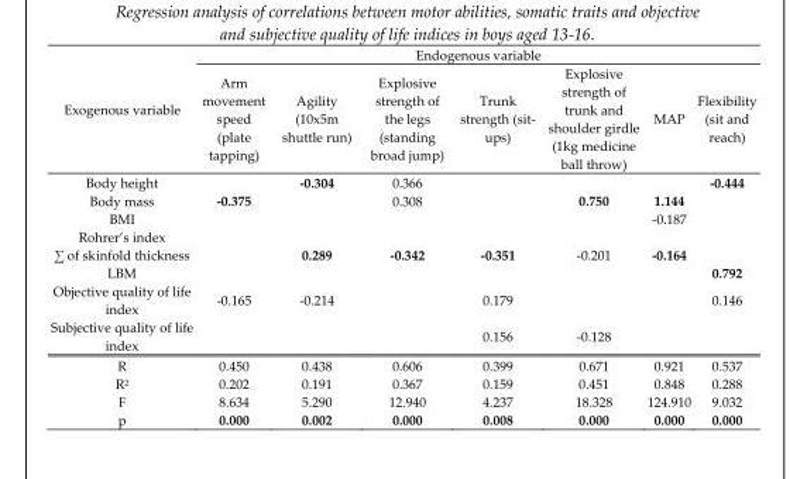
<table><thead><tr><td rowspan="2">Exogenous variable</td><td colspan="7">Endogenous variable</td></tr><tr><td>Arm movement speed (plate tapping)</td><td>Agility (10x5m shuttle run)</td><td>Explosive strength of the legs (standing broad jump)</td><td>Trunk strength (sit- ups)</td><td>Explosive strength of trunk and shoulder girdle (1kg medicine ball throw)</td><td>MAP</td><td>Flexibility (sit and reach)</td></tr></thead><tbody><tr><td>Body height</td><td></td><td>-0.304</td><td>0.366</td><td></td><td></td><td></td><td>-0.444</td></tr><tr><td>Body mass</td><td>-0.375</td><td></td><td>0.308</td><td></td><td>0.750</td><td>1.144</td><td></td></tr><tr><td>BMI</td><td></td><td></td><td></td><td></td><td></td><td>-0.187</td><td></td></tr><tr><td colspan="8">Rohrer’s index</td></tr><tr><td>∑ of skinfold thickness</td><td></td><td>0.289</td><td>-0.342</td><td>-0.351</td><td>-0.201</td><td>-0.164</td><td></td></tr><tr><td>LBM</td><td></td><td></td><td></td><td></td><td></td><td></td><td>0.792</td></tr><tr><td>Objective quality of life index</td><td>-0.165</td><td>-0.214</td><td></td><td>0.179</td><td></td><td></td><td>0.146</td></tr><tr><td>Subjective quality of life index</td><td></td><td></td><td></td><td>0.156</td><td>-0.128</td><td></td><td></td></tr><tr><td>R</td><td>0.450</td><td>0.438</td><td>0.606</td><td>0.399</td><td>0.671</td><td>0.921</td><td>0.537</td></tr><tr><td>R<sup>2</sup></td><td>0.202</td><td>0.191</td><td>0.367</td><td>0.159</td><td>0.451</td><td>0.848</td><td>0.288</td></tr><tr><td>F</td><td>8.634</td><td>5.290</td><td>12.940</td><td>4.237</td><td>18.328</td><td>124.910</td><td>9.032</td></tr><tr><td>p</td><td>0.000</td><td>0.002</td><td>0.000</td><td>0.008</td><td>0.000</td><td>0.000</td><td>0.000</td></tr></tbody></table>